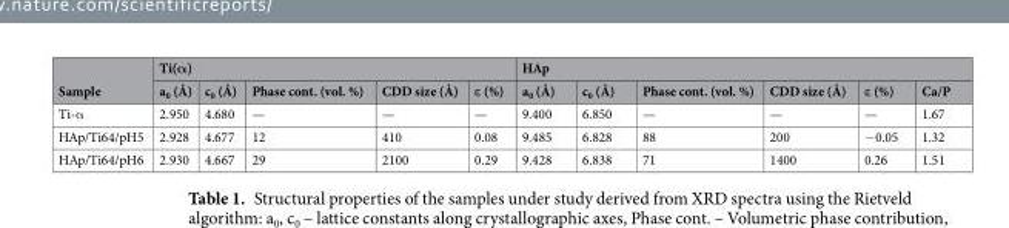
<table><thead><tr><td rowspan="2">Sample</td><td colspan="5">Ti(α)</td><td colspan="6">HAp</td></tr><tr><td>a<sub>0</sub> (Å)</td><td>c<sub>0</sub> (Å)</td><td>Phase cont. (vol. %)</td><td>CDD size (Å)</td><td>ε (%)</td><td>a<sub>0</sub> (Å)</td><td>c<sub>0</sub> (Å)</td><td>Phase cont. (vol. %)</td><td>CDD size (Å)</td><td>ε (%)</td><td>Ca/P</td></tr></thead><tbody><tr><td>Ti-α</td><td>2.950</td><td>4.680</td><td>—</td><td>—</td><td>—</td><td>9.400</td><td>6.850</td><td>—</td><td>—</td><td>—</td><td>1.67</td></tr><tr><td>HAp/Ti64/pH5</td><td>2.928</td><td>4.677</td><td>12</td><td>410</td><td>0.08</td><td>9.485</td><td>6.828</td><td>88</td><td>200</td><td>−0.05</td><td>1.32</td></tr><tr><td>HAp/Ti64/pH6</td><td>2.930</td><td>4.667</td><td>29</td><td>2100</td><td>0.29</td><td>9.428</td><td>6.838</td><td>71</td><td>1400</td><td>0.26</td><td>1.51</td></tr></tbody></table>